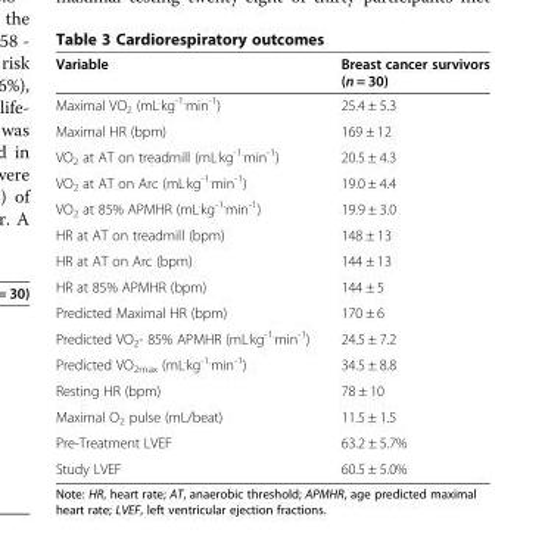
<table><thead><tr><td>Variable</td><td>Breast cancer survivors (n = 30)</td></tr></thead><tbody><tr><td>Maximal VO<sub>2</sub> (mL<sup>.</sup>kg<sup>-1.</sup>min<sup>-1</sup>)</td><td>25.4 ± 5.3</td></tr><tr><td>Maximal HR (bpm)</td><td>169 ± 12</td></tr><tr><td>VO<sub>2</sub> at AT on treadmill (mL<sup>.</sup>kg<sup>-1.</sup>min<sup>-1</sup>)</td><td>20.5 ± 4.3</td></tr><tr><td>VO<sub>2</sub> at AT on Arc (mL<sup>.</sup>kg<sup>-1.</sup>min<sup>-1</sup>)</td><td>19.0 ± 4.4</td></tr><tr><td>VO<sub>2</sub> at 85% APMHR (mL<sup>.</sup>kg<sup>-1.</sup>min<sup>-1</sup>)</td><td>19.9 ± 3.0</td></tr><tr><td>HR at AT on treadmill (bpm)</td><td>148 ± 13</td></tr><tr><td>HR at AT on Arc (bpm)</td><td>144 ± 13</td></tr><tr><td>HR at 85% APMHR (bpm)</td><td>144 ± 5</td></tr><tr><td>Predicted Maximal HR (bpm)</td><td>170 ± 6</td></tr><tr><td>Predicted VO<sub>2</sub>- 85% APMHR (mL<sup>.</sup>kg<sup>-1.</sup>min<sup>-1</sup>)</td><td>24.5 ± 7.2</td></tr><tr><td>Predicted VO<sub>2max</sub> (mL<sup>.</sup>kg<sup>-1.</sup>min<sup>-1</sup>)</td><td>34.5 ± 8.8</td></tr><tr><td>Resting HR (bpm)</td><td>78 ± 10</td></tr><tr><td>Maximal O<sub>2</sub> pulse (mL/beat)</td><td>11.5 ± 1.5</td></tr><tr><td>Pre-Treatment LVEF</td><td>63.2 ± 5.7%</td></tr><tr><td>Study LVEF</td><td>60.5 ± 5.0%</td></tr></tbody></table>